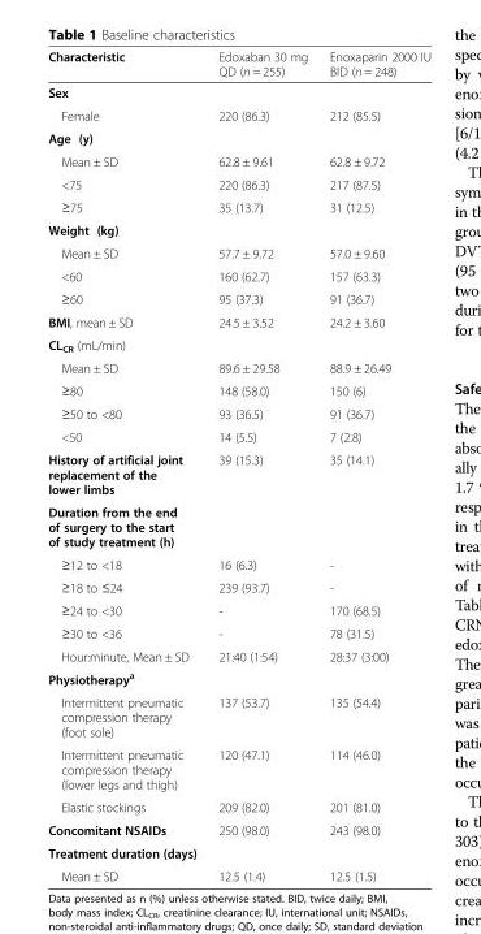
<table><thead><tr><td>Characteristic</td><td>Edoxaban 30 mg QD (n = 255)</td><td>Enoxaparin 2000 IU BID (n = 248)</td></tr></thead><tbody><tr><td colspan="3">Sex</td></tr><tr><td>Female</td><td>220 (86.3)</td><td>212 (85.5)</td></tr><tr><td colspan="3">Age (y)</td></tr><tr><td>Mean ± SD</td><td>62.8 ± 9.61</td><td>62.8 ± 9.72</td></tr><tr><td>&lt;75</td><td>220 (86.3)</td><td>217 (87.5)</td></tr><tr><td>≥75</td><td>35 (13.7)</td><td>31 (12.5)</td></tr><tr><td colspan="3">Weight (kg)</td></tr><tr><td>Mean ± SD</td><td>57.7 ± 9.72</td><td>57.0 ± 9.60</td></tr><tr><td>&lt;60</td><td>160 (62.7)</td><td>157 (63.3)</td></tr><tr><td>≥60</td><td>95 (37.3)</td><td>91 (36.7)</td></tr><tr><td>BMI, mean ± SD</td><td>24.5 ± 3.52</td><td>24.2 ± 3.60</td></tr><tr><td colspan="3">CL<sub>CR</sub> (mL/min)</td></tr><tr><td>Mean ± SD</td><td>89.6 ± 29.58</td><td>88.9 ± 26.49</td></tr><tr><td>≥80</td><td>148 (58.0)</td><td>150 (6)</td></tr><tr><td>≥50 to &lt;80</td><td>93 (36.5)</td><td>91 (36.7)</td></tr><tr><td>&lt;50</td><td>14 (5.5)</td><td>7 (2.8)</td></tr><tr><td>History of artificial joint replacement of the lower limbs</td><td>39 (15.3)</td><td>35 (14.1)</td></tr><tr><td colspan="3">Duration from the end of surgery to the start of study treatment (h)</td></tr><tr><td>≥12 to &lt;18</td><td>16 (6.3)</td><td>-</td></tr><tr><td>≥18 to ≤24</td><td>239 (93.7)</td><td>-</td></tr><tr><td>≥24 to &lt;30</td><td>-</td><td>170 (68.5)</td></tr><tr><td>≥30 to &lt;36</td><td>-</td><td>78 (31.5)</td></tr><tr><td>Hour:minute, Mean ± SD</td><td>21:40 (1:54)</td><td>28:37 (3:00)</td></tr><tr><td colspan="3">Physiotherapy<sup>a</sup></td></tr><tr><td>Intermittent pneumatic compression therapy (foot sole)</td><td>137 (53.7)</td><td>135 (54.4)</td></tr><tr><td>Intermittent pneumatic compression therapy (lower legs and thigh)</td><td>120 (47.1)</td><td>114 (46.0)</td></tr><tr><td>Elastic stockings</td><td>209 (82.0)</td><td>201 (81.0)</td></tr><tr><td>Concomitant NSAIDs</td><td>250 (98.0)</td><td>243 (98.0)</td></tr><tr><td colspan="3">Treatment duration (days)</td></tr><tr><td>Mean ± SD</td><td>12.5 (1.4)</td><td>12.5 (1.5)</td></tr></tbody></table>